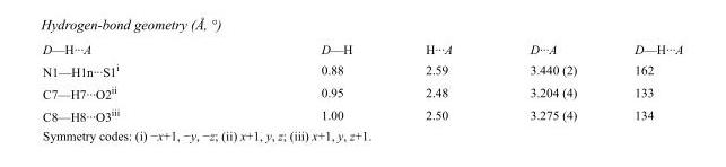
<table><tbody><tr><td>D—H···A</td><td>D—H</td><td>H···A</td><td>D···A</td><td>D—H···A</td></tr><tr><td>N1—H1n···S1<sup>i</sup></td><td>0.88</td><td>2.59</td><td>3.440 (2)</td><td>162</td></tr><tr><td>C7—H7···O2<sup>ii</sup></td><td>0.95</td><td>2.48</td><td>3.204 (4)</td><td>133</td></tr><tr><td>C8—H8···O3<sup>iii</sup></td><td>1.00</td><td>2.50</td><td>3.275 (4)</td><td>134</td></tr></tbody></table>